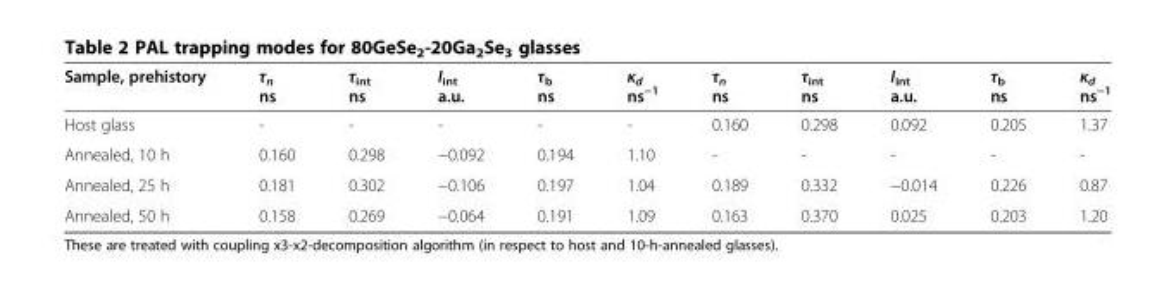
<table><thead><tr><td>Sample, prehistory</td><td>τ<sub>n</sub> ns</td><td>τ<sub>int</sub> ns</td><td>I<sub>int</sub> a.u.</td><td>τ<sub>b</sub> ns</td><td>κ<sub>d</sub> ns<sup>−1</sup></td><td>τ<sub>n</sub> ns</td><td>τ<sub>int</sub> ns</td><td>I<sub>int</sub> a.u.</td><td>τ<sub>b</sub> ns</td><td>κ<sub>d</sub> ns<sup>−1</sup></td></tr></thead><tbody><tr><td>Host glass</td><td>-</td><td>-</td><td>-</td><td>-</td><td>-</td><td>0.160</td><td>0.298</td><td>0.092</td><td>0.205</td><td>1.37</td></tr><tr><td>Annealed, 10 h</td><td>0.160</td><td>0.298</td><td>−0.092</td><td>0.194</td><td>1.10</td><td>-</td><td>-</td><td>-</td><td>-</td><td>-</td></tr><tr><td>Annealed, 25 h</td><td>0.181</td><td>0.302</td><td>−0.106</td><td>0.197</td><td>1.04</td><td>0.189</td><td>0.332</td><td>−0.014</td><td>0.226</td><td>0.87</td></tr><tr><td>Annealed, 50 h</td><td>0.158</td><td>0.269</td><td>−0.064</td><td>0.191</td><td>1.09</td><td>0.163</td><td>0.370</td><td>0.025</td><td>0.203</td><td>1.20</td></tr></tbody></table>